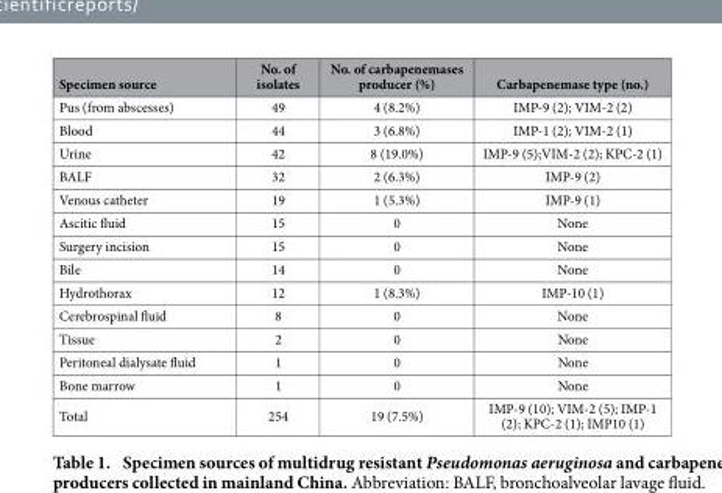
<table><thead><tr><td>Specimen source</td><td>No. of isolates</td><td>No. of carbapenemases producer (%)</td><td>Carbapenemase type (no.)</td></tr></thead><tbody><tr><td>Pus (from abscesses)</td><td>49</td><td>4 (8.2%)</td><td>IMP-9 (2); VIM-2 (2)</td></tr><tr><td>Blood</td><td>44</td><td>3 (6.8%)</td><td>IMP-1 (2); VIM-2 (1)</td></tr><tr><td>Urine</td><td>42</td><td>8 (19.0%)</td><td>IMP-9 (5);VIM-2 (2); KPC-2 (1)</td></tr><tr><td>BALF</td><td>32</td><td>2 (6.3%)</td><td>IMP-9 (2)</td></tr><tr><td>Venous catheter</td><td>19</td><td>1 (5.3%)</td><td>IMP-9 (1)</td></tr><tr><td>Ascitic fluid</td><td>15</td><td>0</td><td>None</td></tr><tr><td>Surgery incision</td><td>15</td><td>0</td><td>None</td></tr><tr><td>Bile</td><td>14</td><td>0</td><td>None</td></tr><tr><td>Hydrothorax</td><td>12</td><td>1 (8.3%)</td><td>IMP-10 (1)</td></tr><tr><td>Cerebrospinal fluid</td><td>8</td><td>0</td><td>None</td></tr><tr><td>Tissue</td><td>2</td><td>0</td><td>None</td></tr><tr><td>Peritoneal dialysate fluid</td><td>1</td><td>0</td><td>None</td></tr><tr><td>Bone marrow</td><td>1</td><td>0</td><td>None</td></tr><tr><td>Total</td><td>254</td><td>19 (7.5%)</td><td>IMP-9 (10); VIM-2 (5); IMP-1 (2); KPC-2 (1); IMP10 (1)</td></tr></tbody></table>